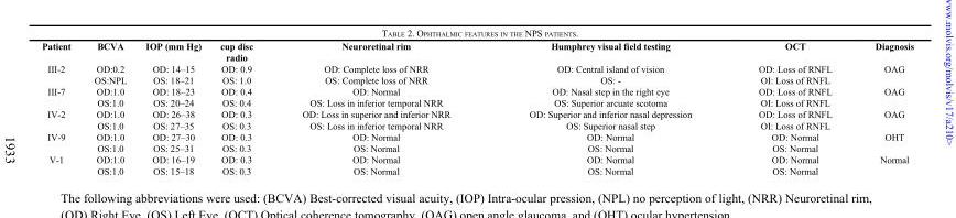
<table><thead><tr><td>Patient</td><td>BCVA</td><td>IOP (mm Hg)</td><td>cup disc radio</td><td>Neuroretinal rim</td><td>Humphrey visual field testing</td><td>OCT</td><td>Diagnosis</td></tr></thead><tbody><tr><td rowspan="2">III-2</td><td>OD:0.2</td><td>OD: 14–15</td><td>OD: 0.9</td><td>OD: Complete loss of NRR</td><td>OD: Central island of vision</td><td>OD: Loss of RNFL</td><td>OAG</td></tr><tr><td>OS:NPL</td><td>OS: 18–21</td><td>OS: 1.0</td><td>OS: Complete loss of NRR</td><td>OS: -</td><td>OI: Loss of RNFL</td><td></td></tr><tr><td rowspan="2">III-7</td><td>OD:1.0</td><td>OD: 18–23</td><td>OD: 0.4</td><td>OD: Normal</td><td>OD: Nasal step in the right eye</td><td>OD: Loss of RNFL</td><td>OAG</td></tr><tr><td>OS:1.0</td><td>OS: 20–24</td><td>OS: 0.4</td><td>OS: Loss in inferior temporal NRR</td><td>OS: Superior arcuate scotoma</td><td>OI: Loss of RNFL</td><td></td></tr><tr><td rowspan="2">IV-2</td><td>OD:1.0</td><td>OD: 26–38</td><td>OD: 0.3</td><td>OD: Loss in superior and inferior NRR</td><td>OD: Superior and inferior nasal depression</td><td>OD: Loss of RNFL</td><td>OAG</td></tr><tr><td>OS:1.0</td><td>OS: 27–35</td><td>OS: 0.3</td><td>OS: Loss in inferior temporal NRR</td><td>OS: Superior nasal step</td><td>OI: Loss of RNFL</td><td></td></tr><tr><td rowspan="2">IV-9</td><td>OD:1.0</td><td>OD: 27–30</td><td>OD: 0.3</td><td>OD: Normal</td><td>OD: Normal</td><td>OD: Normal</td><td>OHT</td></tr><tr><td>OS:1.0</td><td>OS: 25–31</td><td>OS: 0.3</td><td>OS: Normal</td><td>OS: Normal</td><td>OS: Normal</td><td></td></tr><tr><td rowspan="2">V-1</td><td>OD:1.0</td><td>OD: 16–19</td><td>OD: 0.3</td><td>OD: Normal</td><td>OD: Normal</td><td>OD: Normal</td><td>Normal</td></tr><tr><td>OS:1.0</td><td>OS: 15–18</td><td>OS: 0.3</td><td>OS: Normal</td><td>OS: Normal</td><td>OS: Normal</td><td></td></tr></tbody></table>